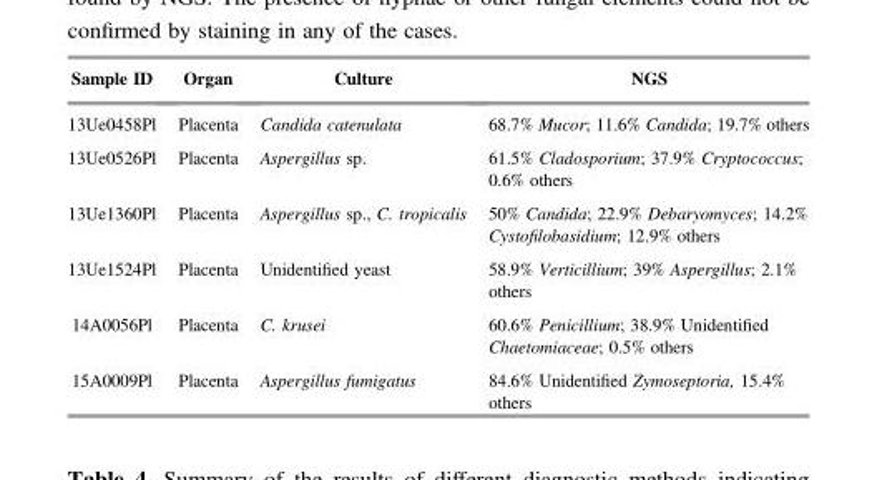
<table><thead><tr><td>Sample ID</td><td>Organ</td><td>Culture</td><td>NGS</td></tr></thead><tbody><tr><td>13Ue0458Pl</td><td>Placenta</td><td>Candida catenulata</td><td>68.7% Mucor; 11.6% Candida; 19.7% others</td></tr><tr><td>13Ue0526Pl</td><td>Placenta</td><td>Aspergillus sp.</td><td>61.5% Cladosporium; 37.9% Cryptococcus; 0.6% others</td></tr><tr><td>13Ue1360Pl</td><td>Placenta</td><td>Aspergillus sp., C. tropicalis</td><td>50% Candida; 22.9% Debaryomyces; 14.2% Cystofilobasidium; 12.9% others</td></tr><tr><td>13Ue1524Pl</td><td>Placenta</td><td>Unidentified yeast</td><td>58.9% Verticillium; 39% Aspergillus; 2.1% others</td></tr><tr><td>14A0056Pl</td><td>Placenta</td><td>C. krusei</td><td>60.6% Penicillium; 38.9% Unidentified Chaetomiaceae; 0.5% others</td></tr><tr><td>15A0009Pl</td><td>Placenta</td><td>Aspergillus fumigatus</td><td>84.6% Unidentified Zymoseptoria, 15.4% others</td></tr></tbody></table>